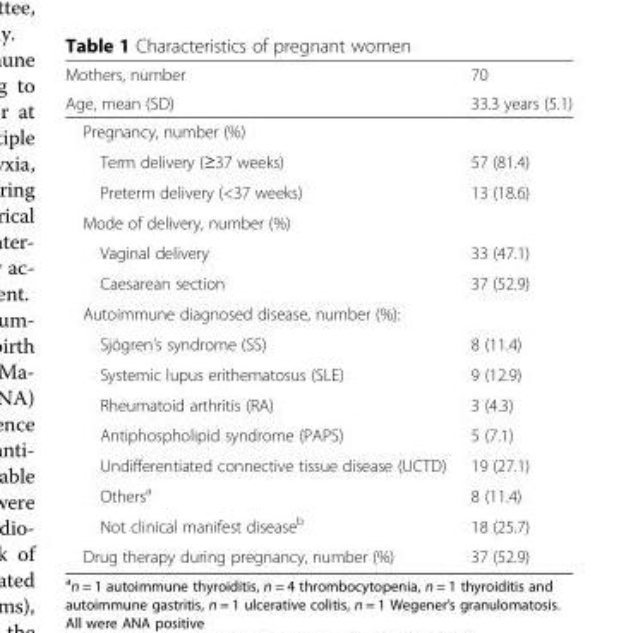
<table><thead><tr><td rowspan="2">Mothers, number Age, mean (SD)</td><td rowspan="2">70 33.3 years (5.1)</td></tr><tr></tr></thead><tbody><tr><td colspan="2">Pregnancy, number (%)</td></tr><tr><td>Term delivery (≥37 weeks)</td><td>57 (81.4)</td></tr><tr><td>Preterm delivery (&lt;37 weeks)</td><td>13 (18.6)</td></tr><tr><td colspan="2">Mode of delivery, number (%)</td></tr><tr><td>Vaginal delivery</td><td>33 (47.1)</td></tr><tr><td>Caesarean section</td><td>37 (52.9)</td></tr><tr><td colspan="2">Autoimmune diagnosed disease, number (%):</td></tr><tr><td>Sjögren’s syndrome (SS)</td><td>8 (11.4)</td></tr><tr><td>Systemic lupus erithematosus (SLE)</td><td>9 (12.9)</td></tr><tr><td>Rheumatoid arthritis (RA)</td><td>3 (4.3)</td></tr><tr><td>Antiphospholipid syndrome (PAPS)</td><td>5 (7.1)</td></tr><tr><td>Undifferentiated connective tissue disease (UCTD)</td><td>19 (27.1)</td></tr><tr><td>Others<sup>a</sup></td><td>8 (11.4)</td></tr><tr><td>Not clinical manifest disease<sup>b</sup></td><td>18 (25.7)</td></tr><tr><td>Drug therapy during pregnancy, number (%)</td><td>37 (52.9)</td></tr></tbody></table>